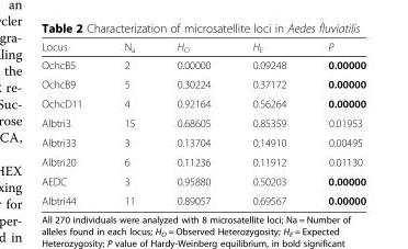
<table><thead><tr><td>Locus</td><td>N<sub>a</sub></td><td>H<sub>O</sub></td><td>H<sub>E</sub></td><td>P</td></tr></thead><tbody><tr><td>OchcB5</td><td>2</td><td>0.00000</td><td>0.09248</td><td>0.00000</td></tr><tr><td>OchcB9</td><td>5</td><td>0.30224</td><td>0.37172</td><td>0.00000</td></tr><tr><td>OchcD11</td><td>4</td><td>0.92164</td><td>0.56264</td><td>0.00000</td></tr><tr><td>Albtri3</td><td>15</td><td>0.68605</td><td>0.85359</td><td>0.01953</td></tr><tr><td>Albtri33</td><td>3</td><td>0.13704</td><td>0.14910</td><td>0.00495</td></tr><tr><td>Albtri20</td><td>6</td><td>0.11236</td><td>0.11912</td><td>0.01130</td></tr><tr><td>AEDC</td><td>3</td><td>0.95880</td><td>0.50203</td><td>0.00000</td></tr><tr><td>Albtri44</td><td>11</td><td>0.89057</td><td>0.69567</td><td>0.00000</td></tr></tbody></table>